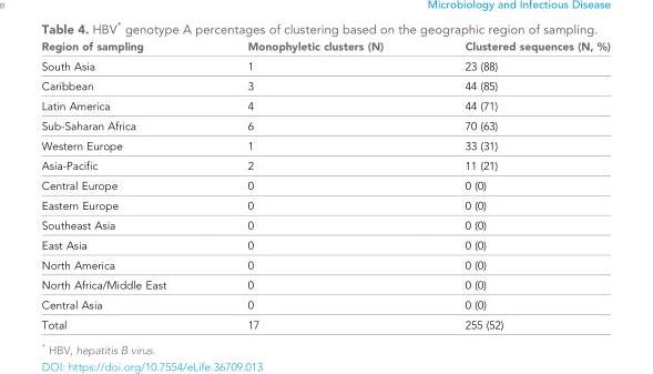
<table><thead><tr><td>Region of sampling</td><td>Monophyletic clusters (N)</td><td>Clustered sequences (N, %)</td></tr></thead><tbody><tr><td>South Asia</td><td>1</td><td>23 (88)</td></tr><tr><td>Caribbean</td><td>3</td><td>44 (85)</td></tr><tr><td>Latin America</td><td>4</td><td>44 (71)</td></tr><tr><td>Sub-Saharan Africa</td><td>6</td><td>70 (63)</td></tr><tr><td>Western Europe</td><td>1</td><td>33 (31)</td></tr><tr><td>Asia-Pacific</td><td>2</td><td>11 (21)</td></tr><tr><td>Central Europe</td><td>0</td><td>0 (0)</td></tr><tr><td>Eastern Europe</td><td>0</td><td>0 (0)</td></tr><tr><td>Southeast Asia</td><td>0</td><td>0 (0)</td></tr><tr><td>East Asia</td><td>0</td><td>0 (0)</td></tr><tr><td>North America</td><td>0</td><td>0 (0)</td></tr><tr><td>North Africa/Middle East</td><td>0</td><td>0 (0)</td></tr><tr><td>Central Asia</td><td>0</td><td>0 (0)</td></tr><tr><td>Total</td><td>17</td><td>255 (52)</td></tr></tbody></table>